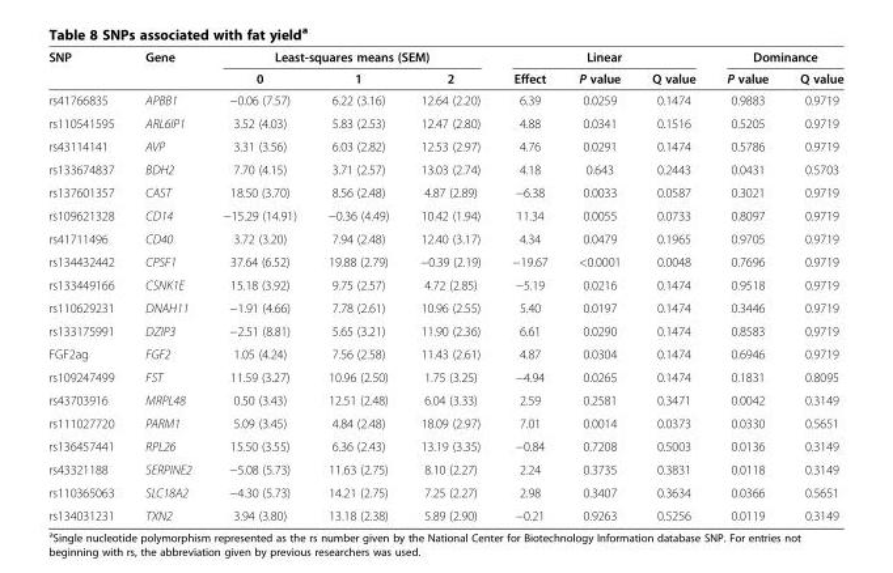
<table><thead><tr><td rowspan="2">SNP</td><td rowspan="2">Gene</td><td colspan="3">Least-squares means (SEM)</td><td colspan="3">Linear</td><td colspan="2">Dominance</td></tr><tr><td>0</td><td>1</td><td>2</td><td>Effect</td><td>P value</td><td>Q value</td><td>P value</td><td>Q value</td></tr></thead><tbody><tr><td>rs41766835</td><td>APBB1</td><td>−0.06 (7.57)</td><td>6.22 (3.16)</td><td>12.64 (2.20)</td><td>6.39</td><td>0.0259</td><td>0.1474</td><td>0.9883</td><td>0.9719</td></tr><tr><td>rs110541595</td><td>ARL6IP1</td><td>3.52 (4.03)</td><td>5.83 (2.53)</td><td>12.47 (2.80)</td><td>4.88</td><td>0.0341</td><td>0.1516</td><td>0.5205</td><td>0.9719</td></tr><tr><td>rs43114141</td><td>AVP</td><td>3.31 (3.56)</td><td>6.03 (2.82)</td><td>12.53 (2.97)</td><td>4.76</td><td>0.0291</td><td>0.1474</td><td>0.5786</td><td>0.9719</td></tr><tr><td>rs133674837</td><td>BDH2</td><td>7.70 (4.15)</td><td>3.71 (2.57)</td><td>13.03 (2.74)</td><td>4.18</td><td>0.643</td><td>0.2443</td><td>0.0431</td><td>0.5703</td></tr><tr><td>rs137601357</td><td>CAST</td><td>18.50 (3.70)</td><td>8.56 (2.48)</td><td>4.87 (2.89)</td><td>−6.38</td><td>0.0033</td><td>0.0587</td><td>0.3021</td><td>0.9719</td></tr><tr><td>rs109621328</td><td>CD14</td><td>−15.29 (14.91)</td><td>−0.36 (4.49)</td><td>10.42 (1.94)</td><td>11.34</td><td>0.0055</td><td>0.0733</td><td>0.8097</td><td>0.9719</td></tr><tr><td>rs41711496</td><td>CD40</td><td>3.72 (3.20)</td><td>7.94 (2.48)</td><td>12.40 (3.17)</td><td>4.34</td><td>0.0479</td><td>0.1965</td><td>0.9705</td><td>0.9719</td></tr><tr><td>rs134432442</td><td>CPSF1</td><td>37.64 (6.52)</td><td>19.88 (2.79)</td><td>−0.39 (2.19)</td><td>−19.67</td><td>&lt;0.0001</td><td>0.0048</td><td>0.7696</td><td>0.9719</td></tr><tr><td>rs133449166</td><td>CSNK1E</td><td>15.18 (3.92)</td><td>9.75 (2.57)</td><td>4.72 (2.85)</td><td>−5.19</td><td>0.0216</td><td>0.1474</td><td>0.9518</td><td>0.9719</td></tr><tr><td>rs110629231</td><td>DNAH11</td><td>−1.91 (4.66)</td><td>7.78 (2.61)</td><td>10.96 (2.55)</td><td>5.40</td><td>0.0197</td><td>0.1474</td><td>0.3446</td><td>0.9719</td></tr><tr><td>rs133175991</td><td>DZIP3</td><td>−2.51 (8.81)</td><td>5.65 (3.21)</td><td>11.90 (2.36)</td><td>6.61</td><td>0.0290</td><td>0.1474</td><td>0.8583</td><td>0.9719</td></tr><tr><td>FGF2ag</td><td>FGF2</td><td>1.05 (4.24)</td><td>7.56 (2.58)</td><td>11.43 (2.61)</td><td>4.87</td><td>0.0304</td><td>0.1474</td><td>0.6946</td><td>0.9719</td></tr><tr><td>rs109247499</td><td>FST</td><td>11.59 (3.27)</td><td>10.96 (2.50)</td><td>1.75 (3.25)</td><td>−4.94</td><td>0.0265</td><td>0.1474</td><td>0.1831</td><td>0.8095</td></tr><tr><td>rs43703916</td><td>MRPL48</td><td>0.50 (3.43)</td><td>12.51 (2.48)</td><td>6.04 (3.33)</td><td>2.59</td><td>0.2581</td><td>0.3471</td><td>0.0042</td><td>0.3149</td></tr><tr><td>rs111027720</td><td>PARM1</td><td>5.09 (3.45)</td><td>4.84 (2.48)</td><td>18.09 (2.97)</td><td>7.01</td><td>0.0014</td><td>0.0373</td><td>0.0330</td><td>0.5651</td></tr><tr><td>rs136457441</td><td>RPL26</td><td>15.50 (3.55)</td><td>6.36 (2.43)</td><td>13.19 (3.35)</td><td>−0.84</td><td>0.7208</td><td>0.5003</td><td>0.0136</td><td>0.3149</td></tr><tr><td>rs43321188</td><td>SERPINE2</td><td>−5.08 (5.73)</td><td>11.63 (2.75)</td><td>8.10 (2.27)</td><td>2.24</td><td>0.3735</td><td>0.3831</td><td>0.0118</td><td>0.3149</td></tr><tr><td>rs110365063</td><td>SLC18A2</td><td>−4.30 (5.73)</td><td>14.21 (2.75)</td><td>7.25 (2.27)</td><td>2.98</td><td>0.3407</td><td>0.3634</td><td>0.0366</td><td>0.5651</td></tr><tr><td>rs134031231</td><td>TXN2</td><td>3.94 (3.80)</td><td>13.18 (2.38)</td><td>5.89 (2.90)</td><td>−0.21</td><td>0.9263</td><td>0.5256</td><td>0.0119</td><td>0.3149</td></tr></tbody></table>